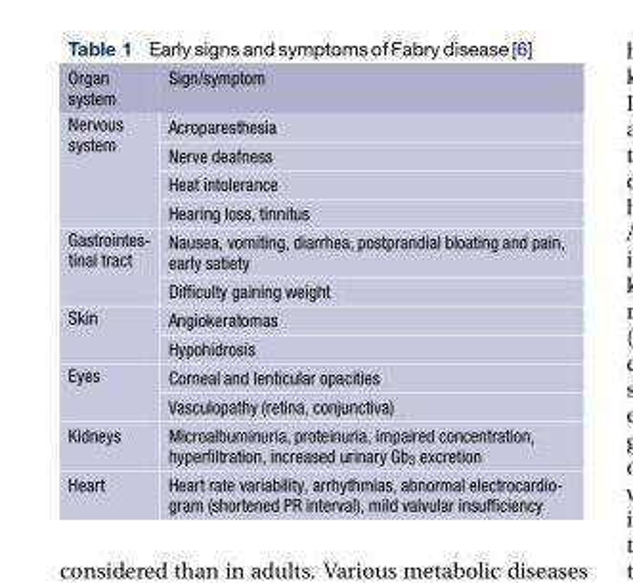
<table><thead><tr><td>Organ system</td><td>Sign/symptom</td></tr></thead><tbody><tr><td rowspan="4">Nervous system</td><td>Acroparesthesia</td></tr><tr><td>Nerve deafness</td></tr><tr><td>Heat intolerance</td></tr><tr><td>Hearing loss, tinnitus</td></tr><tr><td rowspan="2">Gastrointes- tinal tract</td><td>Nausea, vomiting, diarrhea, postprandial bloating and pain, early satiety</td></tr><tr><td>Difficulty gaining weight</td></tr><tr><td rowspan="2">Skin</td><td>Angiokeratomas</td></tr><tr><td>Hypohidrosis</td></tr><tr><td rowspan="2">Eyes</td><td>Corneal and lenticular opacities</td></tr><tr><td>Vasculopathy (retina, conjunctiva)</td></tr><tr><td>Kidneys</td><td>Microalbuminuria, proteinuria, impaired concentration, hyperfiltration, increased urinary Gb<sub>3</sub> excretion</td></tr><tr><td>Heart</td><td>Heart rate variability, arrhythmias, abnormal electrocardio- gram (shortened PR interval), mild valvular insufficiency</td></tr></tbody></table>